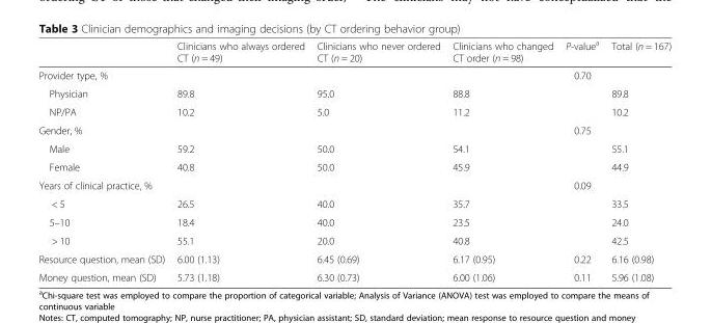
<table><thead><tr><td></td><td>Clinicians who always ordered CT (n = 49)</td><td>Clinicians who never ordered CT (n = 20)</td><td>Clinicians who changed CT order (n = 98)</td><td>P-value<sup>a</sup></td><td>Total (n = 167)</td></tr></thead><tbody><tr><td>Provider type, %</td><td></td><td></td><td></td><td>0.70</td><td></td></tr><tr><td>Physician</td><td>89.8</td><td>95.0</td><td>88.8</td><td></td><td>89.8</td></tr><tr><td>NP/PA</td><td>10.2</td><td>5.0</td><td>11.2</td><td></td><td>10.2</td></tr><tr><td>Gender, %</td><td></td><td></td><td></td><td>0.75</td><td></td></tr><tr><td>Male</td><td>59.2</td><td>50.0</td><td>54.1</td><td></td><td>55.1</td></tr><tr><td>Female</td><td>40.8</td><td>50.0</td><td>45.9</td><td></td><td>44.9</td></tr><tr><td>Years of clinical practice, %</td><td></td><td></td><td></td><td>0.09</td><td></td></tr><tr><td>&lt; 5</td><td>26.5</td><td>40.0</td><td>35.7</td><td></td><td>33.5</td></tr><tr><td>5–10</td><td>18.4</td><td>40.0</td><td>23.5</td><td></td><td>24.0</td></tr><tr><td>&gt; 10</td><td>55.1</td><td>20.0</td><td>40.8</td><td></td><td>42.5</td></tr><tr><td>Resource question, mean (SD)</td><td>6.00 (1.13)</td><td>6.45 (0.69)</td><td>6.17 (0.95)</td><td>0.22</td><td>6.16 (0.98)</td></tr><tr><td>Money question, mean (SD)</td><td>5.73 (1.18)</td><td>6.30 (0.73)</td><td>6.00 (1.06)</td><td>0.11</td><td>5.96 (1.08)</td></tr></tbody></table>